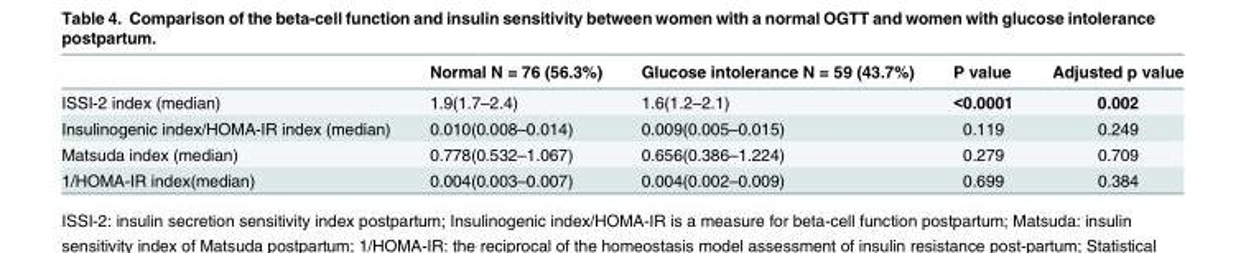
<table><thead><tr><td></td><td>Normal N = 76 (56.3%)</td><td>Glucose intolerance N = 59 (43.7%)</td><td>P value</td><td>Adjusted p value</td></tr></thead><tbody><tr><td>ISSI-2 index (median)</td><td>1.9(1.7–2.4)</td><td>1.6(1.2–2.1)</td><td>&lt;0.0001</td><td>0.002</td></tr><tr><td>Insulinogenic index/HOMA-IR index (median)</td><td>0.010(0.008–0.014)</td><td>0.009(0.005–0.015)</td><td>0.119</td><td>0.249</td></tr><tr><td>Matsuda index (median)</td><td>0.778(0.532–1.067)</td><td>0.656(0.386–1.224)</td><td>0.279</td><td>0.709</td></tr><tr><td>1/HOMA-IR index(median)</td><td>0.004(0.003–0.007)</td><td>0.004(0.002–0.009)</td><td>0.699</td><td>0.384</td></tr></tbody></table>